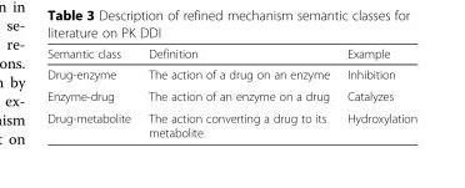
<table><thead><tr><td>Semantic class</td><td>Definition</td><td>Example</td></tr></thead><tbody><tr><td>Drug-enzyme</td><td>The action of a drug on an enzyme</td><td>Inhibition</td></tr><tr><td>Enzyme-drug</td><td>The action of an enzyme on a drug</td><td>Catalyzes</td></tr><tr><td>Drug-metabolite</td><td>The action converting a drug to its metabolite</td><td>Hydroxylation</td></tr></tbody></table>